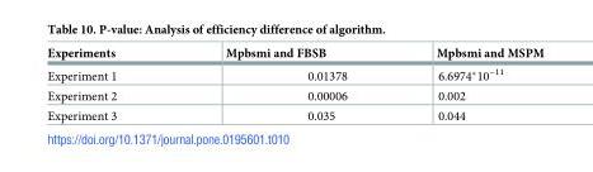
<table><thead><tr><td>Experiments</td><td>Mpbsmi and FBSB</td><td>Mpbsmi and MSPM</td></tr></thead><tbody><tr><td>Experiment 1</td><td>0.01378</td><td>6.6974*10<sup>−11</sup></td></tr><tr><td>Experiment 2</td><td>0.00006</td><td>0.002</td></tr><tr><td>Experiment 3</td><td>0.035</td><td>0.044</td></tr></tbody></table>